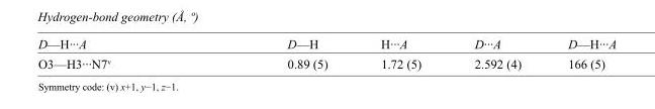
<table><tbody><tr><td>D—H···A</td><td>D—H</td><td>H···A</td><td>D···A</td><td>D—H···A</td></tr><tr><td>O3—H3···N7<sup>v</sup></td><td>0.89 (5)</td><td>1.72 (5)</td><td>2.592 (4)</td><td>166 (5)</td></tr></tbody></table>